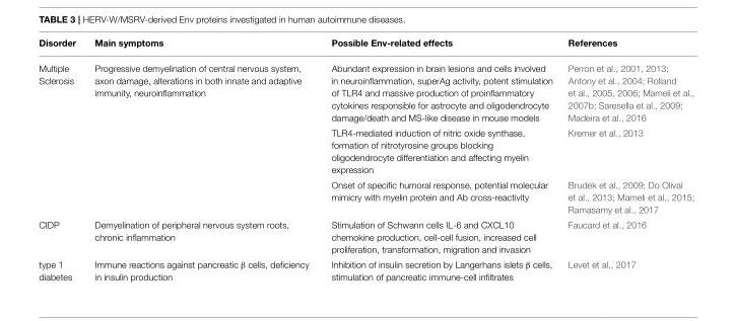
<table><thead><tr><td>Disorder</td><td>Main symptoms</td><td>Possible Env-related effects</td><td>References</td></tr></thead><tbody><tr><td rowspan="3">Multiple Sclerosis</td><td>Progressive demyelination of central nervous system, axon damage, alterations in both innate and adaptive immunity, neuroinflammation</td><td>Abundant expression in brain lesions and cells involved in neuroinflammation, superAg activity, potent stimulation of TLR4 and massive production of proinflammatory cytokines responsible for astrocyte and oligodendrocyte damage/death and MS-like disease in mouse models</td><td>Perron et al., 2001, 2013; Antony et al., 2004; Rolland et al., 2005, 2006; Mameli et al., 2007b; Saresella et al., 2009; Madeira et al., 2016</td></tr><tr><td></td><td>TLR4-mediated induction of nitric oxide synthase, formation of nitrotyrosine groups blocking oligodendrocyte differentiation and affecting myelin expression</td><td>Kremer et al., 2013</td></tr><tr><td></td><td>Onset of specific humoral response, potential molecular mimicry with myelin protein and Ab cross-reactivity</td><td>Brudek et al., 2009; Do Olival et al., 2013; Mameli et al., 2015; Ramasamy et al., 2017</td></tr><tr><td>CIDP</td><td>Demyelination of peripheral nervous system roots, chronic inflammation</td><td>Stimulation of Schwann cells IL-6 and CXCL10 chemokine production, cell-cell fusion, increased cell proliferation, transformation, migration and invasion</td><td>Faucard et al., 2016</td></tr><tr><td>type 1 diabetes</td><td>Immune reactions against pancreatic β cells, deficiency in insulin production</td><td>Inhibition of insulin secretion by Langerhans islets β cells, stimulation of pancreatic immune-cell infiltrates</td><td>Levet et al., 2017</td></tr></tbody></table>